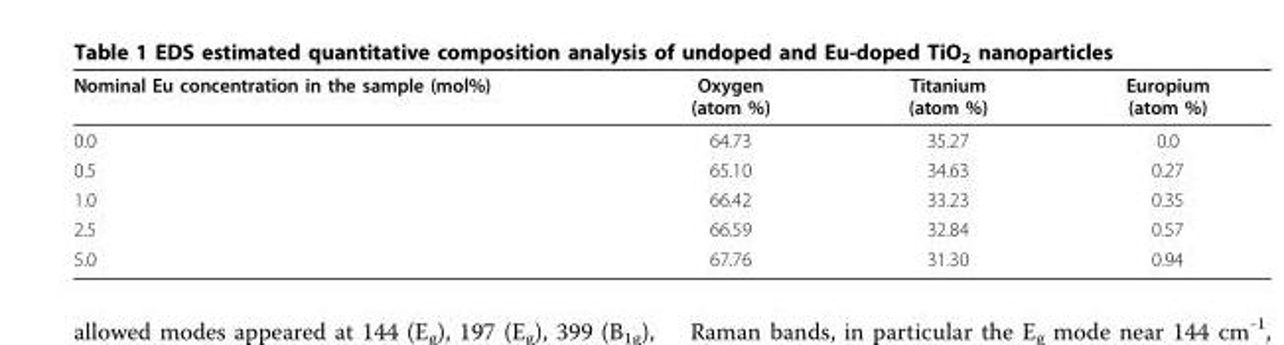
<table><thead><tr><td>Nominal Eu concentration in the sample (mol%)</td><td>Oxygen (atom %)</td><td>Titanium (atom %)</td><td>Europium (atom %)</td></tr></thead><tbody><tr><td>0.0</td><td>64.73</td><td>35.27</td><td>0.0</td></tr><tr><td>0.5</td><td>65.10</td><td>34.63</td><td>0.27</td></tr><tr><td>1.0</td><td>66.42</td><td>33.23</td><td>0.35</td></tr><tr><td>2.5</td><td>66.59</td><td>32.84</td><td>0.57</td></tr><tr><td>5.0</td><td>67.76</td><td>31.30</td><td>0.94</td></tr></tbody></table>